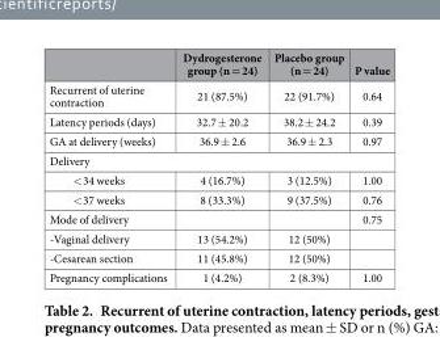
<table><thead><tr><td></td><td>Dydrogesterone group (n = 24)</td><td>Placebo group (n = 24)</td><td>P value</td></tr></thead><tbody><tr><td>Recurrent of uterine contraction</td><td>21 (87.5%)</td><td>22 (91.7%)</td><td>0.64</td></tr><tr><td>Latency periods (days)</td><td>32.7 ± 20.2</td><td>38.2 ± 24.2</td><td>0.39</td></tr><tr><td>GA at delivery (weeks)</td><td>36.9 ± 2.6</td><td>36.9 ± 2.3</td><td>0.97</td></tr><tr><td colspan="4">Delivery</td></tr><tr><td>&lt; 34 weeks</td><td>4 (16.7%)</td><td>3 (12.5%)</td><td>1.00</td></tr><tr><td>&lt; 37 weeks</td><td>8 (33.3%)</td><td>9 (37.5%)</td><td>0.76</td></tr><tr><td>Mode of delivery</td><td></td><td></td><td>0.75</td></tr><tr><td>-Vaginal delivery</td><td>13 (54.2%)</td><td>12 (50%)</td><td></td></tr><tr><td>-Cesarean section</td><td>11 (45.8%)</td><td>12 (50%)</td><td></td></tr><tr><td>Pregnancy complications</td><td>1 (4.2%)</td><td>2 (8.3%)</td><td>1.00</td></tr></tbody></table>